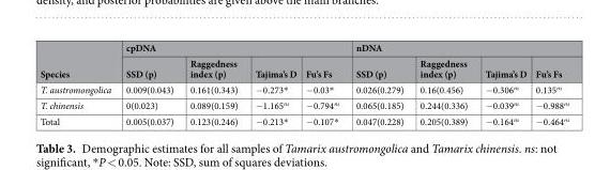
<table><thead><tr><td rowspan="2">Species</td><td colspan="4">cpDNA</td><td colspan="4">nDNA</td></tr><tr><td>SSD (p)</td><td>Raggedness index (p)</td><td>Tajima’s D</td><td>Fu’s Fs</td><td>SSD (p)</td><td>Raggedness index (p)</td><td>Tajima’s D</td><td>Fu’s Fs</td></tr></thead><tbody><tr><td>T. austromongolica</td><td>0.009(0.043)</td><td>0.161(0.343)</td><td>−0.273*</td><td>−0.03*</td><td>0.026(0.279)</td><td>0.16(0.456)</td><td>−0.306<sup>ns</sup></td><td>0.135<sup>ns</sup></td></tr><tr><td>T. chinensis</td><td>0(0.023)</td><td>0.089(0.159)</td><td>−1.165<sup>ns</sup></td><td>−0.794<sup>ns</sup></td><td>0.065(0.185)</td><td>0.244(0.336)</td><td>−0.039<sup>ns</sup></td><td>−0.988<sup>ns</sup></td></tr><tr><td>Total</td><td>0.005(0.037)</td><td>0.123(0.246)</td><td>−0.213*</td><td>−0.107*</td><td>0.047(0.228)</td><td>0.205(0.389)</td><td>−0.164<sup>ns</sup></td><td>−0.464<sup>ns</sup></td></tr></tbody></table>